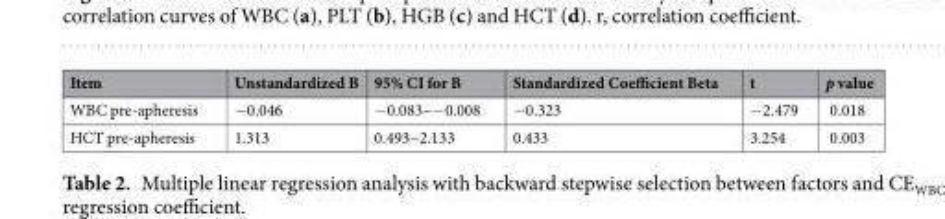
<table><thead><tr><td>Item</td><td>Unstandardized B</td><td>95% CI for B</td><td>Standardized Coefficient Beta</td><td>t</td><td>p value</td></tr></thead><tbody><tr><td>WBC pre-apheresis</td><td>−0.046</td><td>−0.083~−0.008</td><td>−0.323</td><td>−2.479</td><td>0.018</td></tr><tr><td>HCT pre-apheresis</td><td>1.313</td><td>0.493~2.133</td><td>0.433</td><td>3.254</td><td>0.003</td></tr></tbody></table>